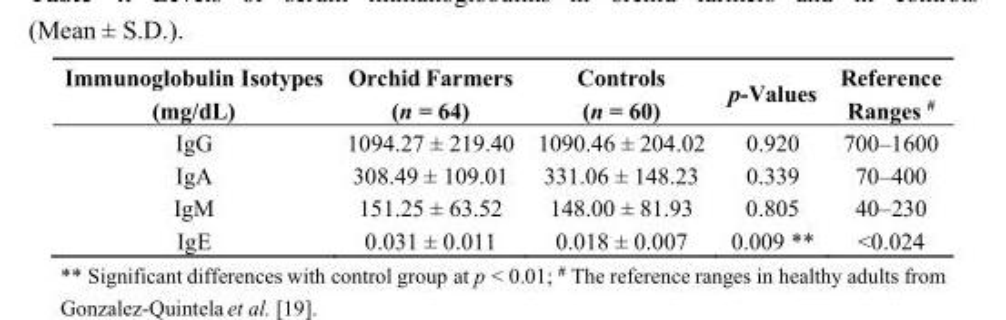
<table><thead><tr><td>Immunoglobulin Isotypes (mg/dL)</td><td>Orchid Farmers (n = 64)</td><td>Controls (n = 60)</td><td>p-Values</td><td>Reference Ranges <sup>#</sup></td></tr></thead><tbody><tr><td>IgG</td><td>1094.27 ± 219.40</td><td>1090.46 ± 204.02</td><td>0.920</td><td>700–1600</td></tr><tr><td>IgA</td><td>308.49 ± 109.01</td><td>331.06 ± 148.23</td><td>0.339</td><td>70–400</td></tr><tr><td>IgM</td><td>151.25 ± 63.52</td><td>148.00 ± 81.93</td><td>0.805</td><td>40–230</td></tr><tr><td>IgE</td><td>0.031 ± 0.011</td><td>0.018 ± 0.007</td><td>0.009 **</td><td>&lt;0.024</td></tr></tbody></table>